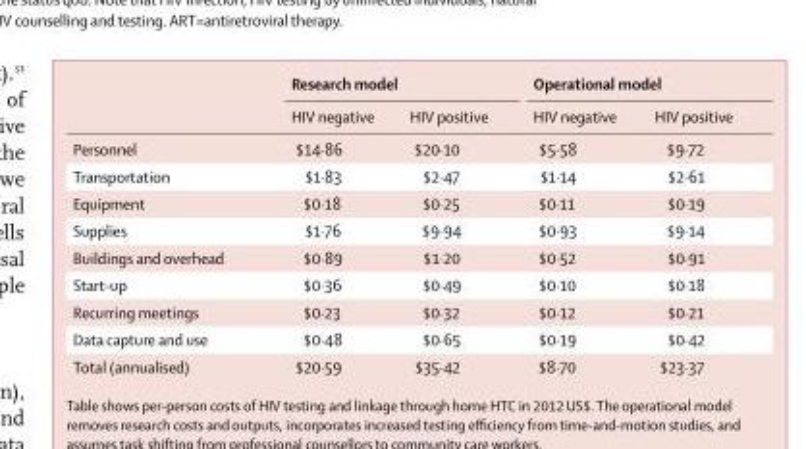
<table><thead><tr><td rowspan="2"></td><td colspan="2">Research model</td><td colspan="2">Operational model</td></tr><tr><td>HIV negative</td><td>HIV positive</td><td>HIV negative</td><td>HIV positive</td></tr></thead><tbody><tr><td>Personnel</td><td>$14·86</td><td>$20·10</td><td>$5·58</td><td>$9·72</td></tr><tr><td>Transportation</td><td>$1·83</td><td>$2·47</td><td>$1·14</td><td>$2·61</td></tr><tr><td>Equipment</td><td>$0·18</td><td>$0·25</td><td>$0·11</td><td>$0·19</td></tr><tr><td>Supplies</td><td>$1·76</td><td>$9·94</td><td>$0·93</td><td>$9·14</td></tr><tr><td>Buildings and overhead</td><td>$0·89</td><td>$1·20</td><td>$0·52</td><td>$0·91</td></tr><tr><td>Start-up</td><td>$0·36</td><td>$0·49</td><td>$0·10</td><td>$0·18</td></tr><tr><td>Recurring meetings</td><td>$0·23</td><td>$0·32</td><td>$0·12</td><td>$0·21</td></tr><tr><td>Data capture and use</td><td>$0·48</td><td>$0·65</td><td>$0·19</td><td>$0·42</td></tr><tr><td>Total (annualised)</td><td>$20·59</td><td>$35·42</td><td>$8·70</td><td>$23·37</td></tr></tbody></table>